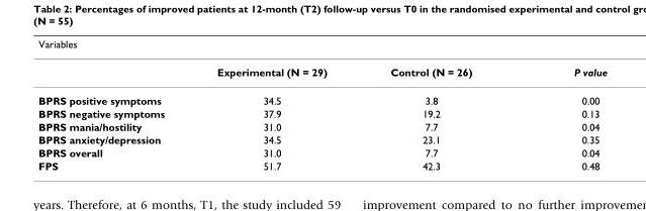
<table><thead><tr><td>Variables</td><td></td><td></td><td></td></tr></thead><tbody><tr><td></td><td>Experimental (N = 29)</td><td>Control (N = 26)</td><td>P value</td></tr><tr><td>BPRS positive symptoms</td><td>34.5</td><td>3.8</td><td>0.00</td></tr><tr><td>BPRS negative symptoms</td><td>37.9</td><td>19.2</td><td>0.13</td></tr><tr><td>BPRS mania/hostility</td><td>31.0</td><td>7.7</td><td>0.04</td></tr><tr><td>BPRS anxiety/depression</td><td>34.5</td><td>23.1</td><td>0.35</td></tr><tr><td>BPRS overall</td><td>31.0</td><td>7.7</td><td>0.04</td></tr><tr><td>FPS</td><td>51.7</td><td>42.3</td><td>0.48</td></tr></tbody></table>